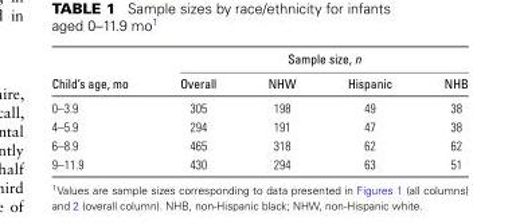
<table><thead><tr><td rowspan="2">Child’s age, mo</td><td colspan="4">Sample size, n</td></tr><tr><td>Overall</td><td>NHW</td><td>Hispanic</td><td>NHB</td></tr></thead><tbody><tr><td>0–3.9</td><td>305</td><td>198</td><td>49</td><td>38</td></tr><tr><td>4–5.9</td><td>294</td><td>191</td><td>47</td><td>38</td></tr><tr><td>6–8.9</td><td>465</td><td>318</td><td>62</td><td>62</td></tr><tr><td>9–11.9</td><td>430</td><td>294</td><td>63</td><td>51</td></tr></tbody></table>